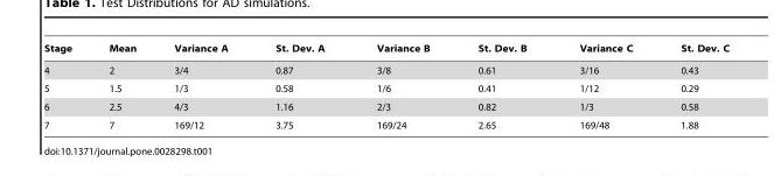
<table><thead><tr><td>Stage</td><td>Mean</td><td>Variance A</td><td>St. Dev. A</td><td>Variance B</td><td>St. Dev. B</td><td>Variance C</td><td>St. Dev. C</td></tr></thead><tbody><tr><td>4</td><td>2</td><td>3/4</td><td>0.87</td><td>3/8</td><td>0.61</td><td>3/16</td><td>0.43</td></tr><tr><td>5</td><td>1.5</td><td>1/3</td><td>0.58</td><td>1/6</td><td>0.41</td><td>1/12</td><td>0.29</td></tr><tr><td>6</td><td>2.5</td><td>4/3</td><td>1.16</td><td>2/3</td><td>0.82</td><td>1/3</td><td>0.58</td></tr><tr><td>7</td><td>7</td><td>169/12</td><td>3.75</td><td>169/24</td><td>2.65</td><td>169/48</td><td>1.88</td></tr></tbody></table>